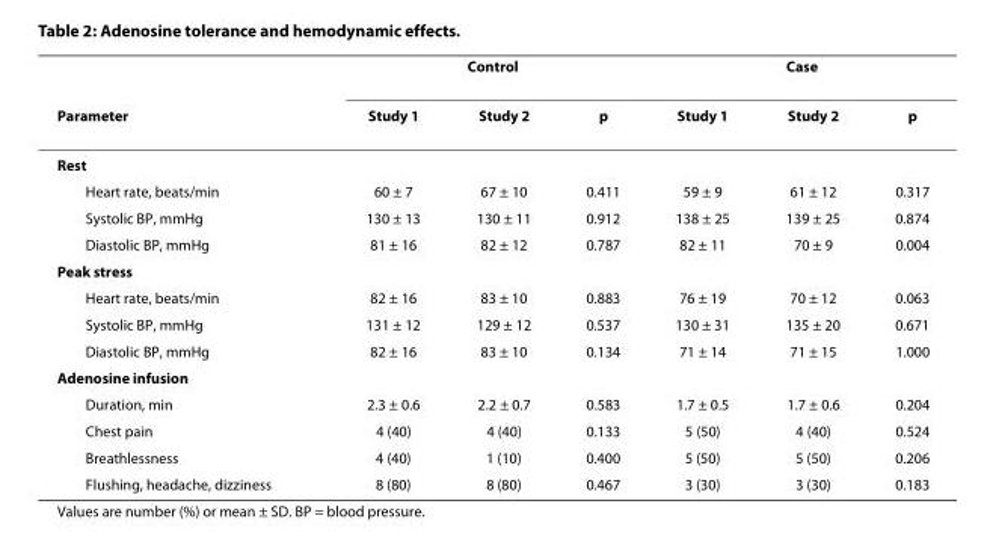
<table><thead><tr><td rowspan="2">Parameter</td><td colspan="3">Control</td><td colspan="3">Case</td></tr><tr><td>Study 1</td><td>Study 2</td><td>p</td><td>Study 1</td><td>Study 2</td><td>p</td></tr></thead><tbody><tr><td colspan="7">Rest</td></tr><tr><td>Heart rate, beats/min</td><td>60 ± 7</td><td>67 ± 10</td><td>0.411</td><td>59 ± 9</td><td>61 ± 12</td><td>0.317</td></tr><tr><td>Systolic BP, mmHg</td><td>130 ± 13</td><td>130 ± 11</td><td>0.912</td><td>138 ± 25</td><td>139 ± 25</td><td>0.874</td></tr><tr><td>Diastolic BP, mmHg</td><td>81 ± 16</td><td>82 ± 12</td><td>0.787</td><td>82 ± 11</td><td>70 ± 9</td><td>0.004</td></tr><tr><td colspan="7">Peak stress</td></tr><tr><td>Heart rate, beats/min</td><td>82 ± 16</td><td>83 ± 10</td><td>0.883</td><td>76 ± 19</td><td>70 ± 12</td><td>0.063</td></tr><tr><td>Systolic BP, mmHg</td><td>131 ± 12</td><td>129 ± 12</td><td>0.537</td><td>130 ± 31</td><td>135 ± 20</td><td>0.671</td></tr><tr><td>Diastolic BP, mmHg</td><td>82 ± 16</td><td>83 ± 10</td><td>0.134</td><td>71 ± 14</td><td>71 ± 15</td><td>1.000</td></tr><tr><td colspan="7">Adenosine infusion</td></tr><tr><td>Duration, min</td><td>2.3 ± 0.6</td><td>2.2 ± 0.7</td><td>0.583</td><td>1.7 ± 0.5</td><td>1.7 ± 0.6</td><td>0.204</td></tr><tr><td>Chest pain</td><td>4 (40)</td><td>4 (40)</td><td>0.133</td><td>5 (50)</td><td>4 (40)</td><td>0.524</td></tr><tr><td>Breathlessness</td><td>4 (40)</td><td>1 (10)</td><td>0.400</td><td>5 (50)</td><td>5 (50)</td><td>0.206</td></tr><tr><td>Flushing, headache, dizziness</td><td>8 (80)</td><td>8 (80)</td><td>0.467</td><td>3 (30)</td><td>3 (30)</td><td>0.183</td></tr></tbody></table>